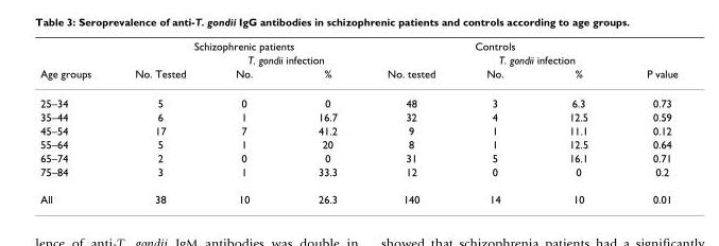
<table><thead><tr><td rowspan="3">Age groups</td><td colspan="3">Schizophrenic patients</td><td colspan="3">Controls</td><td rowspan="3">P value</td></tr><tr><td rowspan="2">No. Tested</td><td colspan="2">T. gondii infection</td><td rowspan="2">No. tested</td><td colspan="2">T. gondii infection</td></tr><tr><td>No.</td><td>%</td><td>No.</td><td>%</td></tr></thead><tbody><tr><td>25–34</td><td>5</td><td>0</td><td>0</td><td>48</td><td>3</td><td>6.3</td><td>0.73</td></tr><tr><td>35–44</td><td>6</td><td>1</td><td>16.7</td><td>32</td><td>4</td><td>12.5</td><td>0.59</td></tr><tr><td>45–54</td><td>17</td><td>7</td><td>41.2</td><td>9</td><td>1</td><td>11.1</td><td>0.12</td></tr><tr><td>55–64</td><td>5</td><td>1</td><td>20</td><td>8</td><td>1</td><td>12.5</td><td>0.64</td></tr><tr><td>65–74</td><td>2</td><td>0</td><td>0</td><td>31</td><td>5</td><td>16.1</td><td>0.71</td></tr><tr><td>75–84</td><td>3</td><td>1</td><td>33.3</td><td>12</td><td>0</td><td>0</td><td>0.2</td></tr><tr><td>All</td><td>38</td><td>10</td><td>26.3</td><td>140</td><td>14</td><td>10</td><td>0.01</td></tr></tbody></table>